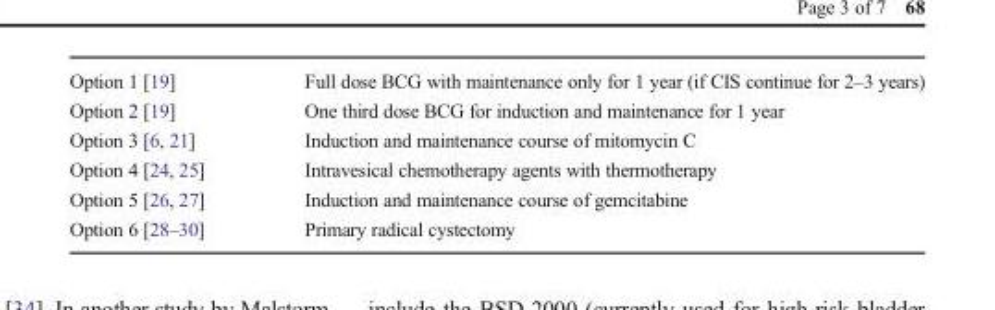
<table><tbody><tr><td>Option 1 [19]</td><td>Full dose BCG with maintenance only for 1 year (if CIS continue for 2–3 years)</td></tr><tr><td>Option 2 [19]</td><td>One third dose BCG for induction and maintenance for 1 year</td></tr><tr><td>Option 3 [6, 21]</td><td>Induction and maintenance course of mitomycin C</td></tr><tr><td>Option 4 [24, 25]</td><td>Intravesical chemotherapy agents with thermotherapy</td></tr><tr><td>Option 5 [26, 27]</td><td>Induction and maintenance course of gemcitabine</td></tr><tr><td>Option 6 [28–30]</td><td>Primary radical cystectomy</td></tr></tbody></table>